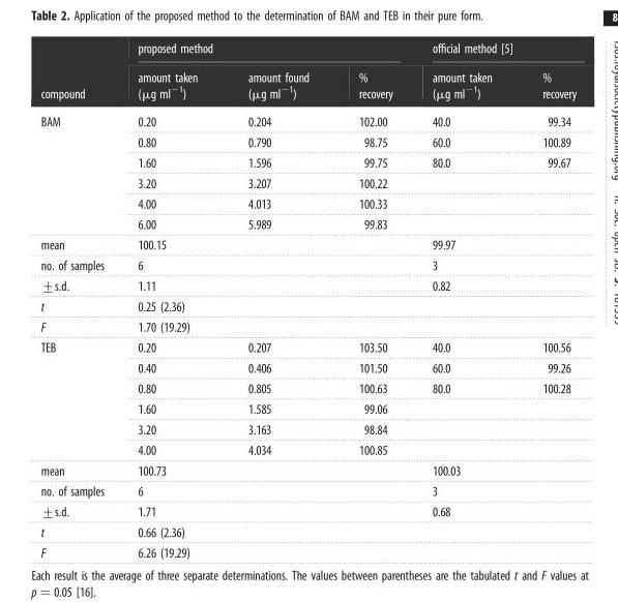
<table><thead><tr><td rowspan="2">compound</td><td colspan="3">proposed method</td><td colspan="2">official method [5]</td></tr><tr><td>amount taken (μg ml<sup>−1</sup>)</td><td>amount found (μg ml<sup>−1</sup>)</td><td>% recovery</td><td>amount taken (μg ml<sup>−1</sup>)</td><td>% recovery</td></tr></thead><tbody><tr><td rowspan="6">BAM</td><td>0.20</td><td>0.204</td><td>102.00</td><td>40.0</td><td>99.34</td></tr><tr><td>0.80</td><td>0.790</td><td>98.75</td><td>60.0</td><td>100.89</td></tr><tr><td>1.60</td><td>1.596</td><td>99.75</td><td>80.0</td><td>99.67</td></tr><tr><td>3.20</td><td>3.207</td><td>100.22</td><td></td><td></td></tr><tr><td>4.00</td><td>4.013</td><td>100.33</td><td></td><td></td></tr><tr><td>6.00</td><td>5.989</td><td>99.83</td><td></td><td></td></tr><tr><td>mean</td><td colspan="3">100.15</td><td colspan="2">99.97</td></tr><tr><td>no. of samples</td><td>6</td><td></td><td></td><td>3</td><td></td></tr><tr><td>+s.d.</td><td colspan="3">1.11</td><td colspan="2">0.82</td></tr><tr><td>t</td><td colspan="5">0.25 (2.36)</td></tr><tr><td>F</td><td colspan="5">1.70 (19.29)</td></tr><tr><td rowspan="6">TEB</td><td>0.20</td><td>0.207</td><td>103.50</td><td>40.0</td><td>100.56</td></tr><tr><td>0.40</td><td>0.406</td><td>101.50</td><td>60.0</td><td>99.26</td></tr><tr><td>0.80</td><td>0.805</td><td>100.63</td><td>80.0</td><td>100.28</td></tr><tr><td>1.60</td><td>1.585</td><td>99.06</td><td></td><td></td></tr><tr><td>3.20</td><td>3.163</td><td>98.84</td><td></td><td></td></tr><tr><td>4.00</td><td>4.034</td><td>100.85</td><td></td><td></td></tr><tr><td>mean</td><td colspan="3">100.73</td><td colspan="2">100.03</td></tr><tr><td>no. of samples</td><td colspan="3">6</td><td colspan="2">3</td></tr><tr><td>+s.d.</td><td colspan="3">1.71</td><td colspan="2">0.68</td></tr><tr><td>t</td><td colspan="5">0.66 (2.36)</td></tr><tr><td>F</td><td colspan="5">6.26 (19.29)</td></tr></tbody></table>